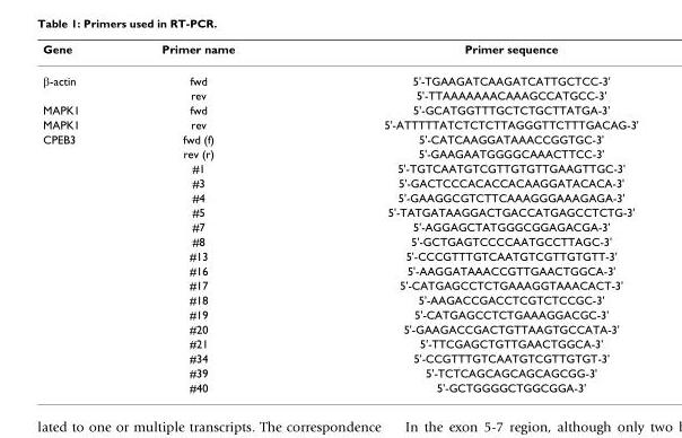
<table><thead><tr><td>Gene</td><td>Primer name</td><td>Primer sequence</td></tr></thead><tbody><tr><td rowspan="2">β-actin</td><td>fwd</td><td>5&#x27;-TGAAGATCAAGATCATTGCTCC-3&#x27;</td></tr><tr><td>rev</td><td>5&#x27;-TTAAAAAAACAAAGCCATGCC-3&#x27;</td></tr><tr><td>MAPK1</td><td>fwd</td><td>5&#x27;-GCATGGTTTGCTCTGCTTATGA-3&#x27;</td></tr><tr><td>MAPK1</td><td>rev</td><td>5&#x27;-ATTTTTATCTCTCTTAGGGTTCTTTGACAG-3&#x27;</td></tr><tr><td rowspan="18">CPEB3</td><td>fwd (f)</td><td>5&#x27;-CATCAAGGATAAACCGGTGC-3&#x27;</td></tr><tr><td>rev (r)</td><td>5&#x27;-GAAGAATGGGGCAAACTTCC-3&#x27;</td></tr><tr><td>#1</td><td>5&#x27;-TGTCAATGTCGTTGTGTTGAAGTTGC-3&#x27;</td></tr><tr><td>#3</td><td>5&#x27;-GACTCCCACACCACAAGGATACACA-3&#x27;</td></tr><tr><td>#4</td><td>5&#x27;-GAAGGCGTCTTCAAAGGGAAAGAGA-3&#x27;</td></tr><tr><td>#5</td><td>5&#x27;-TATGATAAGGACTGACCATGAGCCTCTG-3&#x27;</td></tr><tr><td>#7</td><td>5&#x27;-AGGAGCTATGGGCGGAGACGA-3&#x27;</td></tr><tr><td>#8</td><td>5&#x27;-GCTGAGTCCCCAATGCCTTAGC-3&#x27;</td></tr><tr><td>#13</td><td>5&#x27;-CCCGTTTGTCAATGTCGTTGTGTT-3&#x27;</td></tr><tr><td>#16</td><td>5&#x27;-AAGGATAAACCGTTGAACTGGCA-3&#x27;</td></tr><tr><td>#17</td><td>5&#x27;-CATGAGCCTCTGAAAGGTAAACACT-3&#x27;</td></tr><tr><td>#18</td><td>5&#x27;-AAGACCGACCTCGTCTCCGC-3&#x27;</td></tr><tr><td>#19</td><td>5&#x27;-CATGAGCCTCTGAAAGGACGC-3&#x27;</td></tr><tr><td>#20</td><td>5&#x27;-GAAGACCGACTGTTAAGTGCCATA-3&#x27;</td></tr><tr><td>#21</td><td>5&#x27;-TTCGAGCTGTTGAACTGGCA-3&#x27;</td></tr><tr><td>#34</td><td>5&#x27;-CCGTTTGTCAATGTCGTTGTGT-3&#x27;</td></tr><tr><td>#39</td><td>5&#x27;-TCTCAGCAGCAGCAGCGG-3&#x27;</td></tr><tr><td>#40</td><td>5&#x27;-GCTGGGGCTGGCGGA-3&#x27;</td></tr></tbody></table>